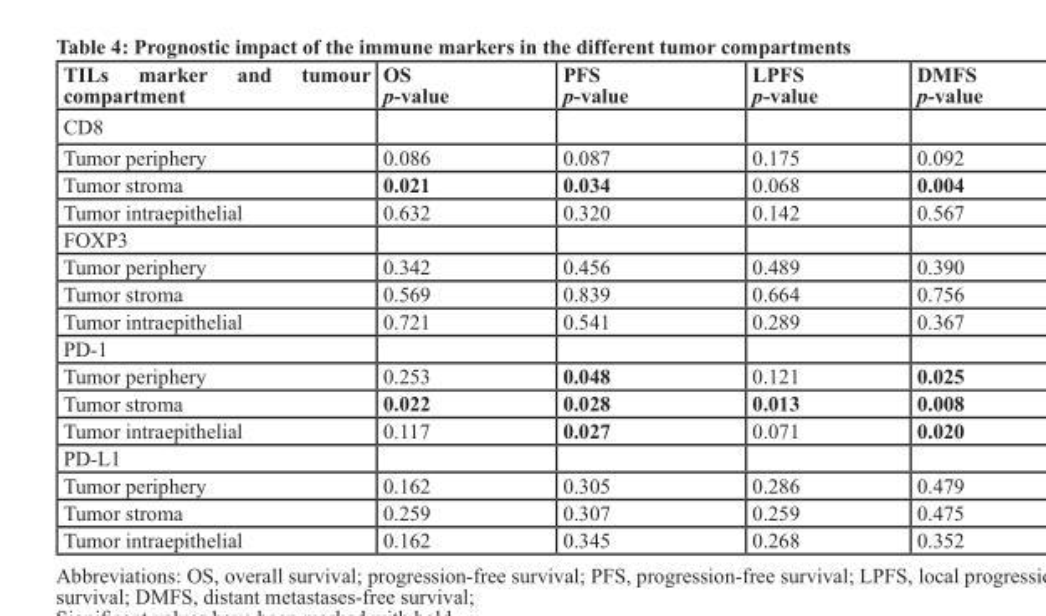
<table><thead><tr><td>tILs marker and tumour compartment</td><td>Os p-value</td><td>PFs p-value</td><td>LPFs p-value</td><td>DMFs p-value</td></tr></thead><tbody><tr><td colspan="5">CD8</td></tr><tr><td>Tumor periphery</td><td>0.086</td><td>0.087</td><td>0.175</td><td>0.092</td></tr><tr><td>Tumor stroma</td><td>0.021</td><td>0.034</td><td>0.068</td><td>0.004</td></tr><tr><td>Tumor intraepithelial</td><td>0.632</td><td>0.320</td><td>0.142</td><td>0.567</td></tr><tr><td colspan="5">FOXP3</td></tr><tr><td>Tumor periphery</td><td>0.342</td><td>0.456</td><td>0.489</td><td>0.390</td></tr><tr><td>Tumor stroma</td><td>0.569</td><td>0.839</td><td>0.664</td><td>0.756</td></tr><tr><td>Tumor intraepithelial</td><td>0.721</td><td>0.541</td><td>0.289</td><td>0.367</td></tr><tr><td colspan="5">PD-1</td></tr><tr><td>Tumor periphery</td><td>0.253</td><td>0.048</td><td>0.121</td><td>0.025</td></tr><tr><td>Tumor stroma</td><td>0.022</td><td>0.028</td><td>0.013</td><td>0.008</td></tr><tr><td>Tumor intraepithelial</td><td>0.117</td><td>0.027</td><td>0.071</td><td>0.020</td></tr><tr><td colspan="5">PD-L1</td></tr><tr><td>Tumor periphery</td><td>0.162</td><td>0.305</td><td>0.286</td><td>0.479</td></tr><tr><td>Tumor stroma</td><td>0.259</td><td>0.307</td><td>0.259</td><td>0.475</td></tr><tr><td>Tumor intraepithelial</td><td>0.162</td><td>0.345</td><td>0.268</td><td>0.352</td></tr></tbody></table>